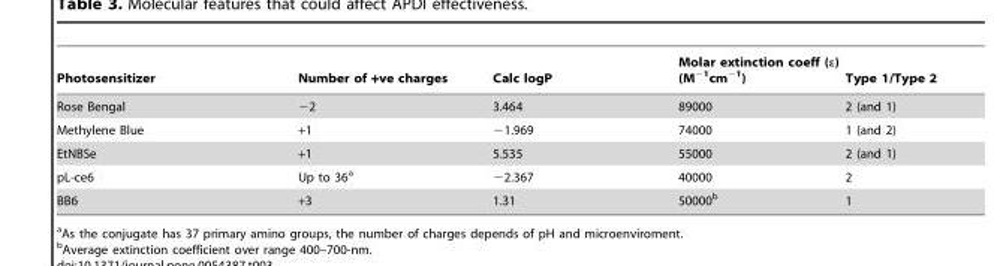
<table><thead><tr><td>Photosensitizer</td><td>Number of +ve charges</td><td>Calc logP</td><td>Molar extinction coeff (ε) (M<sup>−1</sup>cm<sup>−1</sup>)</td><td>Type 1/Type 2</td></tr></thead><tbody><tr><td>Rose Bengal</td><td>−2</td><td>3.464</td><td>89000</td><td>2 (and 1)</td></tr><tr><td>Methylene Blue</td><td>+1</td><td>−1.969</td><td>74000</td><td>1 (and 2)</td></tr><tr><td>EtNBSe</td><td>+1</td><td>5.535</td><td>55000</td><td>2 (and 1)</td></tr><tr><td>pL-ce6</td><td>Up to 36<sup>a</sup></td><td>−2.367</td><td>40000</td><td>2</td></tr><tr><td>BB6</td><td>+3</td><td>1.31</td><td>50000<sup>b</sup></td><td>1</td></tr></tbody></table>